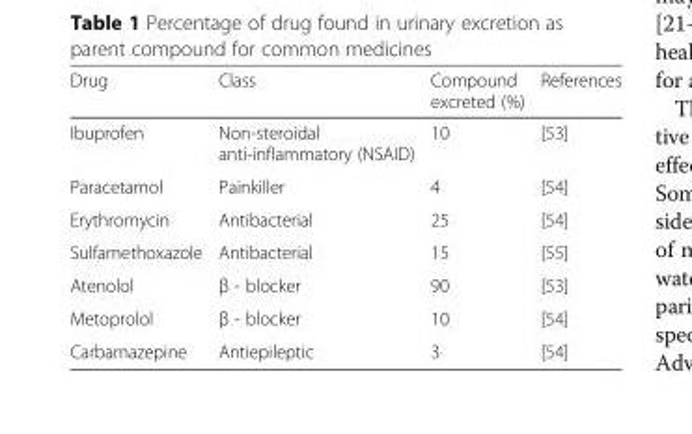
<table><thead><tr><td>Drug</td><td>Class</td><td>Compound excreted (%)</td><td>References</td></tr></thead><tbody><tr><td>Ibuprofen</td><td>Non-steroidal anti-inflammatory (NSAID)</td><td>10</td><td>[53]</td></tr><tr><td>Paracetamol</td><td>Painkiller</td><td>4</td><td>[54]</td></tr><tr><td>Erythromycin</td><td>Antibacterial</td><td>25</td><td>[54]</td></tr><tr><td>Sulfamethoxazole</td><td>Antibacterial</td><td>15</td><td>[55]</td></tr><tr><td>Atenolol</td><td>β - blocker</td><td>90</td><td>[53]</td></tr><tr><td>Metoprolol</td><td>β - blocker</td><td>10</td><td>[54]</td></tr><tr><td>Carbamazepine</td><td>Antiepileptic</td><td>3</td><td>[54]</td></tr></tbody></table>